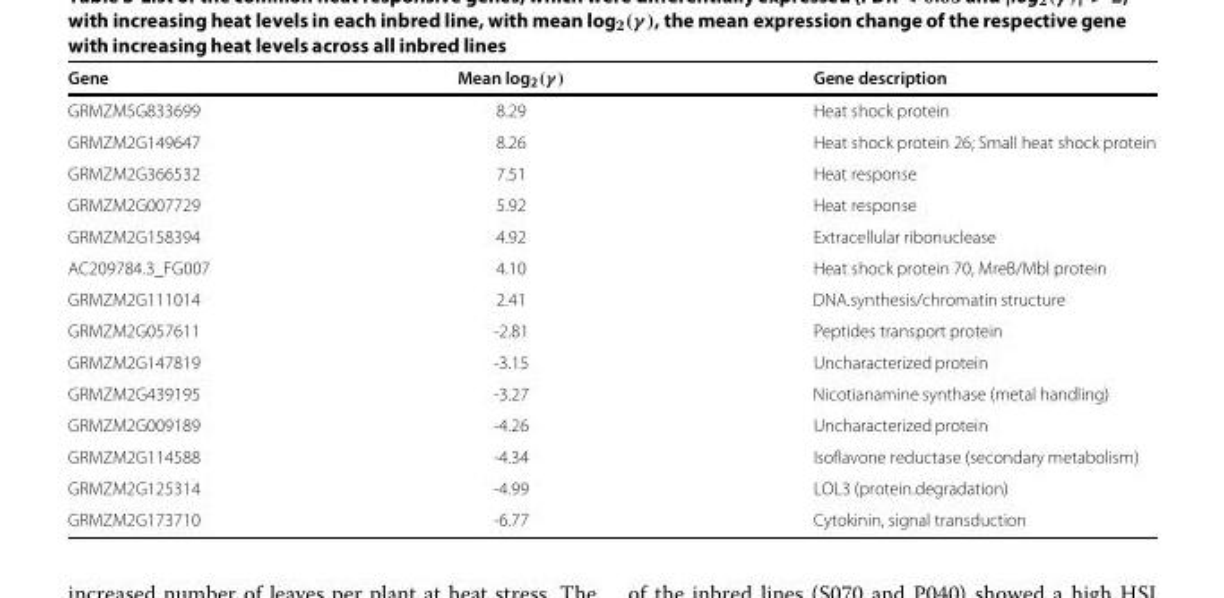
<table><thead><tr><td>Gene</td><td>Mean log<sub>2</sub>(γ )</td><td>Gene description</td></tr></thead><tbody><tr><td>GRMZM5G833699</td><td>8.29</td><td>Heat shock protein</td></tr><tr><td>GRMZM2G149647</td><td>8.26</td><td>Heat shock protein 26; Small heat shock protein</td></tr><tr><td>GRMZM2G366532</td><td>7.51</td><td>Heat response</td></tr><tr><td>GRMZM2G007729</td><td>5.92</td><td>Heat response</td></tr><tr><td>GRMZM2G158394</td><td>4.92</td><td>Extracellular ribonuclease</td></tr><tr><td>AC209784.3_FG007</td><td>4.10</td><td>Heat shock protein 70, MreB/Mbl protein</td></tr><tr><td>GRMZM2G111014</td><td>2.41</td><td>DNA.synthesis/chromatin structure</td></tr><tr><td>GRMZM2G057611</td><td>-2.81</td><td>Peptides transport protein</td></tr><tr><td>GRMZM2G147819</td><td>-3.15</td><td>Uncharacterized protein</td></tr><tr><td>GRMZM2G439195</td><td>-3.27</td><td>Nicotianamine synthase (metal handling)</td></tr><tr><td>GRMZM2G009189</td><td>-4.26</td><td>Uncharacterized protein</td></tr><tr><td>GRMZM2G114588</td><td>-4.34</td><td>Isoflavone reductase (secondary metabolism)</td></tr><tr><td>GRMZM2G125314</td><td>-4.99</td><td>LOL3 (protein.degradation)</td></tr><tr><td>GRMZM2G173710</td><td>-6.77</td><td>Cytokinin, signal transduction</td></tr></tbody></table>